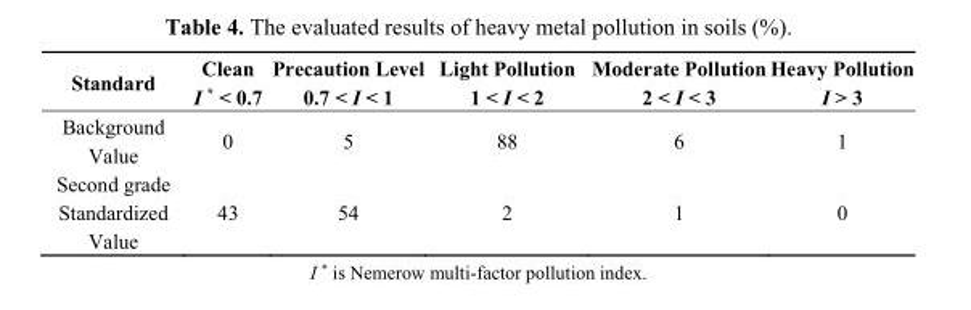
<table><thead><tr><td>Standard</td><td>Clean I * &lt; 0.7</td><td>Precaution Level 0.7 &lt; I &lt; 1</td><td>Light Pollution 1 &lt; I &lt; 2</td><td>Moderate Pollution 2 &lt; I &lt; 3</td><td>Heavy Pollution I &gt; 3</td></tr></thead><tbody><tr><td>Background Value</td><td>0</td><td>5</td><td>88</td><td>6</td><td>1</td></tr><tr><td>Second grade Standardized Value</td><td>43</td><td>54</td><td>2</td><td>1</td><td>0</td></tr></tbody></table>